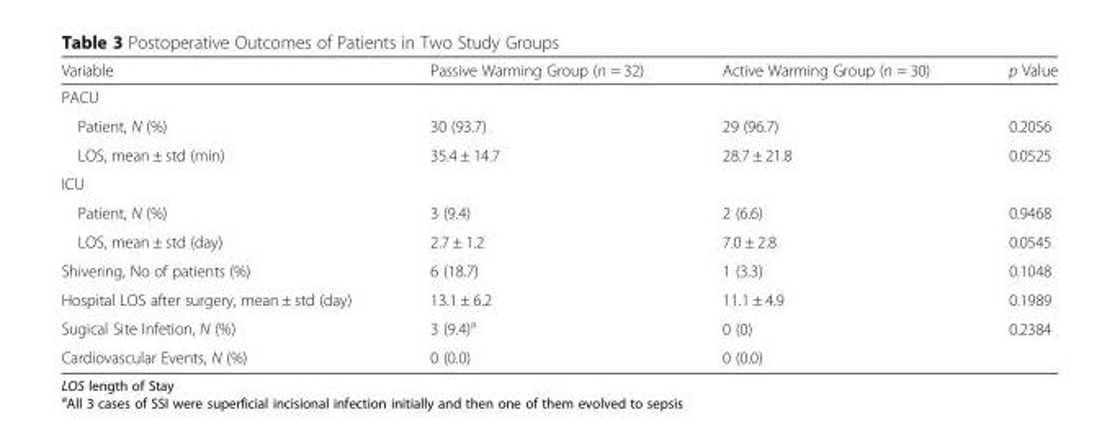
<table><thead><tr><td>Variable</td><td>Passive Warming Group (n = 32)</td><td>Active Warming Group (n = 30)</td><td>p Value</td></tr></thead><tbody><tr><td colspan="4">PACU</td></tr><tr><td>Patient, N (%)</td><td>30 (93.7)</td><td>29 (96.7)</td><td>0.2056</td></tr><tr><td>LOS, mean ± std (min)</td><td>35.4 ± 14.7</td><td>28.7 ± 21.8</td><td>0.0525</td></tr><tr><td colspan="4">ICU</td></tr><tr><td>Patient, N (%)</td><td>3 (9.4)</td><td>2 (6.6)</td><td>0.9468</td></tr><tr><td>LOS, mean ± std (day)</td><td>2.7 ± 1.2</td><td>7.0 ± 2.8</td><td>0.0545</td></tr><tr><td>Shivering, No of patients (%)</td><td>6 (18.7)</td><td>1 (3.3)</td><td>0.1048</td></tr><tr><td>Hospital LOS after surgery, mean ± std (day)</td><td>13.1 ± 6.2</td><td>11.1 ± 4.9</td><td>0.1989</td></tr><tr><td>Sugical Site Infetion, N (%)</td><td>3 (9.4)<sup>a</sup></td><td>0 (0)</td><td>0.2384</td></tr><tr><td>Cardiovascular Events, N (%)</td><td>0 (0.0)</td><td>0 (0.0)</td><td></td></tr></tbody></table>